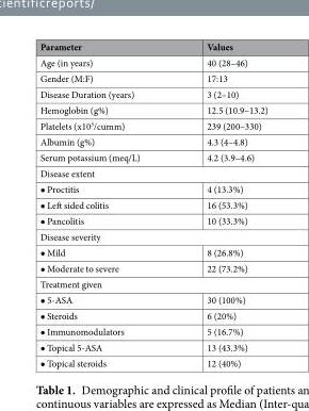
<table><thead><tr><td>Parameter</td><td>Values</td></tr></thead><tbody><tr><td>Age (in years)</td><td>40 (28–46)</td></tr><tr><td>Gender (M:F)</td><td>17:13</td></tr><tr><td>Disease Duration (years)</td><td>3 (2–10)</td></tr><tr><td>Hemoglobin (g%)</td><td>12.5 (10.9–13.2)</td></tr><tr><td>Platelets (x10<sup>3</sup>/cumm)</td><td>239 (200–330)</td></tr><tr><td>Albumin (g%)</td><td>4.3 (4–4.8)</td></tr><tr><td>Serum potassium (meq/L)</td><td>4.2 (3.9–4.6)</td></tr><tr><td colspan="2">Disease extent</td></tr><tr><td>• Proctitis</td><td>4 (13.3%)</td></tr><tr><td>• Left sided colitis</td><td>16 (53.3%)</td></tr><tr><td>• Pancolitis</td><td>10 (33.3%)</td></tr><tr><td colspan="2">Disease severity</td></tr><tr><td>• Mild</td><td>8 (26.8%)</td></tr><tr><td>• Moderate to severe</td><td>22 (73.2%)</td></tr><tr><td colspan="2">Treatment given</td></tr><tr><td>• 5-ASA</td><td>30 (100%)</td></tr><tr><td>• Steroids</td><td>6 (20%)</td></tr><tr><td>• Immunomodulators</td><td>5 (16.7%)</td></tr><tr><td>• Topical 5-ASA</td><td>13 (43.3%)</td></tr><tr><td>• Topical steroids</td><td>12 (40%)</td></tr></tbody></table>